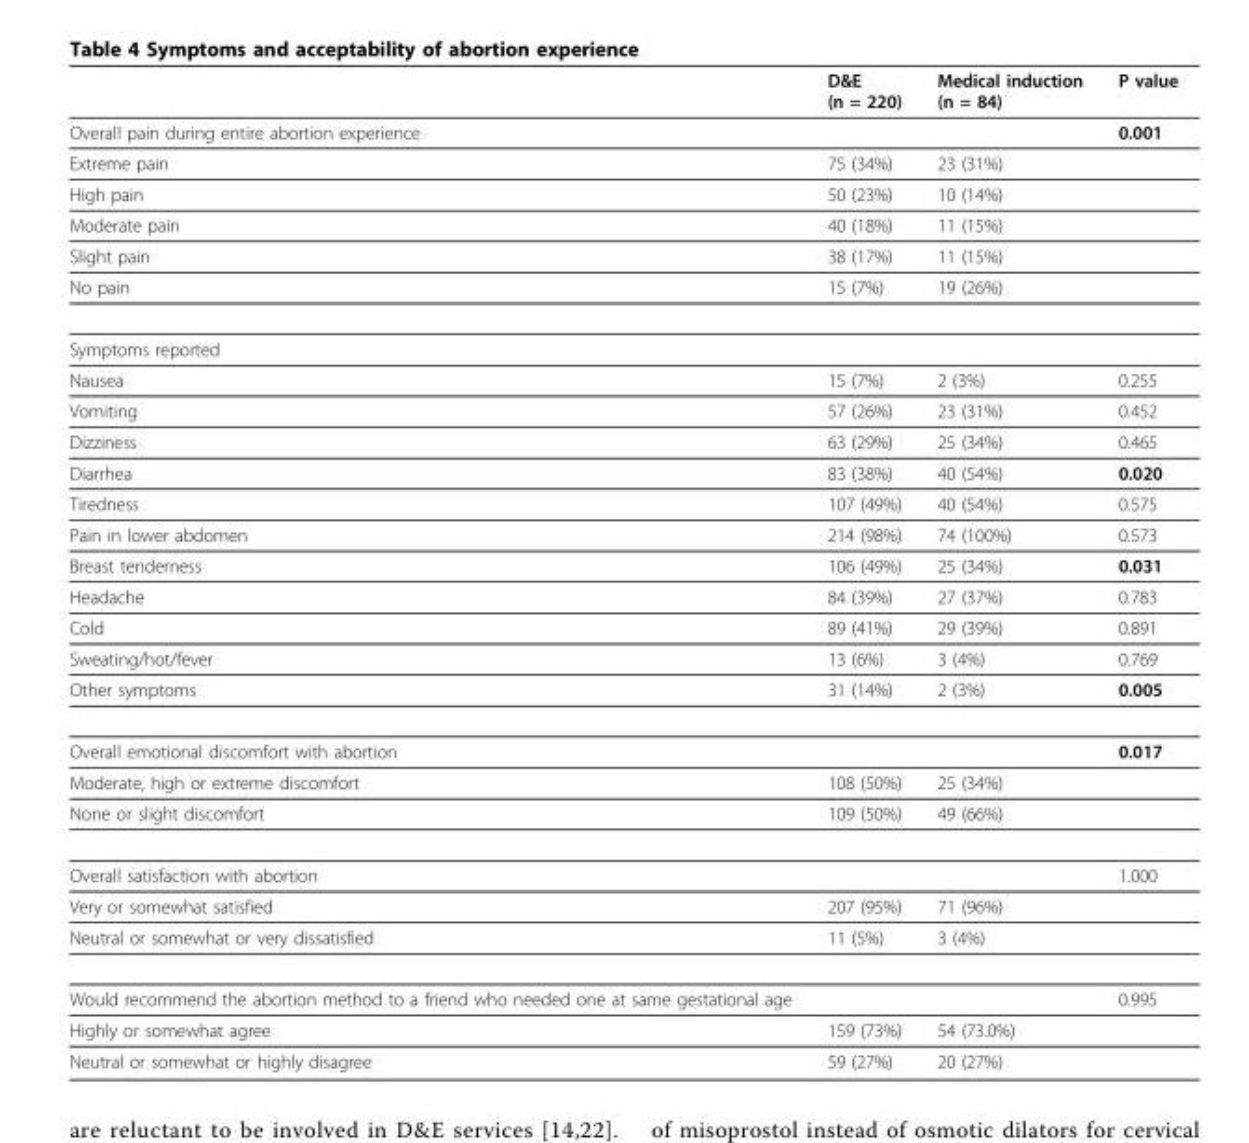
<table><thead><tr><td></td><td>D&amp;E (n = 220)</td><td>Medical induction (n = 84)</td><td>P value</td></tr></thead><tbody><tr><td>Overall pain during entire abortion experience</td><td></td><td></td><td>0.001</td></tr><tr><td>Extreme pain</td><td>75 (34%)</td><td>23 (31%)</td><td></td></tr><tr><td>High pain</td><td>50 (23%)</td><td>10 (14%)</td><td></td></tr><tr><td>Moderate pain</td><td>40 (18%)</td><td>11 (15%)</td><td></td></tr><tr><td>Slight pain</td><td>38 (17%)</td><td>11 (15%)</td><td></td></tr><tr><td>No pain</td><td>15 (7%)</td><td>19 (26%)</td><td></td></tr><tr><td colspan="4">Symptoms reported</td></tr><tr><td>Nausea</td><td>15 (7%)</td><td>2 (3%)</td><td>0.255</td></tr><tr><td>Vomiting</td><td>57 (26%)</td><td>23 (31%)</td><td>0.452</td></tr><tr><td>Dizziness</td><td>63 (29%)</td><td>25 (34%)</td><td>0.465</td></tr><tr><td>Diarrhea</td><td>83 (38%)</td><td>40 (54%)</td><td>0.020</td></tr><tr><td>Tiredness</td><td>107 (49%)</td><td>40 (54%)</td><td>0.575</td></tr><tr><td>Pain in lower abdomen</td><td>214 (98%)</td><td>74 (100%)</td><td>0.573</td></tr><tr><td>Breast tenderness</td><td>106 (49%)</td><td>25 (34%)</td><td>0.031</td></tr><tr><td>Headache</td><td>84 (39%)</td><td>27 (37%)</td><td>0.783</td></tr><tr><td>Cold</td><td>89 (41%)</td><td>29 (39%)</td><td>0.891</td></tr><tr><td>Sweating/hot/fever</td><td>13 (6%)</td><td>3 (4%)</td><td>0.769</td></tr><tr><td>Other symptoms</td><td>31 (14%)</td><td>2 (3%)</td><td>0.005</td></tr><tr><td>Overall emotional discomfort with abortion</td><td></td><td></td><td>0.017</td></tr><tr><td>Moderate, high or extreme discomfort</td><td>108 (50%)</td><td>25 (34%)</td><td></td></tr><tr><td>None or slight discomfort</td><td>109 (50%)</td><td>49 (66%)</td><td></td></tr><tr><td>Overall satisfaction with abortion</td><td></td><td></td><td>1.000</td></tr><tr><td>Very or somewhat satisfied</td><td>207 (95%)</td><td>71 (96%)</td><td></td></tr><tr><td>Neutral or somewhat or very dissatisfied</td><td>11 (5%)</td><td>3 (4%)</td><td></td></tr><tr><td>Would recommend the abortion method to a friend who needed one at same gestational age</td><td></td><td></td><td>0.995</td></tr><tr><td>Highly or somewhat agree</td><td>159 (73%)</td><td>54 (73.0%)</td><td></td></tr><tr><td>Neutral or somewhat or highly disagree</td><td>59 (27%)</td><td>20 (27%)</td><td></td></tr></tbody></table>